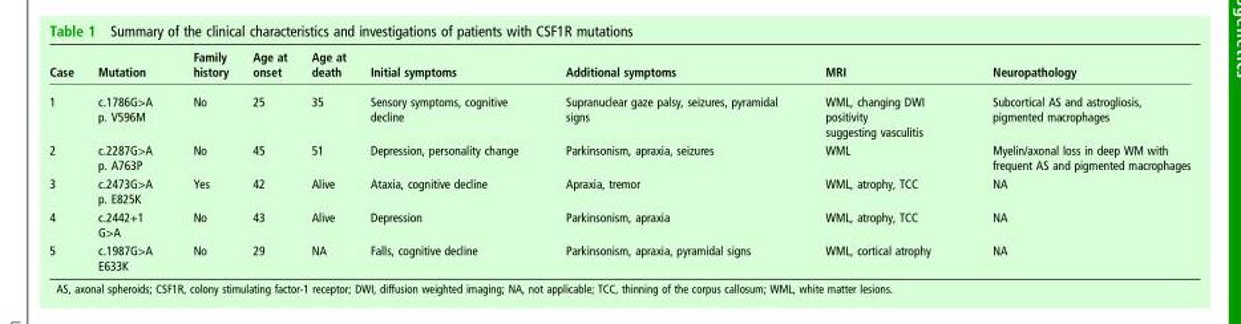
<table><thead><tr><td>Case</td><td>Mutation</td><td>Family history</td><td>Age at onset</td><td>Age at death</td><td>Initial symptoms</td><td>Additional symptoms</td><td>MRI</td><td>Neuropathology</td></tr></thead><tbody><tr><td>1</td><td>c.1786G&gt;A p. V596M</td><td>No</td><td>25</td><td>35</td><td>Sensory symptoms, cognitive decline</td><td>Supranuclear gaze palsy, seizures, pyramidal signs</td><td>WML, changing DWI positivity suggesting vasculitis</td><td>Subcortical AS and astrogliosis, pigmented macrophages</td></tr><tr><td>2</td><td>c.2287G&gt;A p. A763P</td><td>No</td><td>45</td><td>51</td><td>Depression, personality change</td><td>Parkinsonism, apraxia, seizures</td><td>WML</td><td>Myelin/axonal loss in deep WM with frequent AS and pigmented macrophages</td></tr><tr><td>3</td><td>c.2473G&gt;A p. E825K</td><td>Yes</td><td>42</td><td>Alive</td><td>Ataxia, cognitive decline</td><td>Apraxia, tremor</td><td>WML, atrophy, TCC</td><td>NA</td></tr><tr><td>4</td><td>c.2442+1 G&gt;A</td><td>No</td><td>43</td><td>Alive</td><td>Depression</td><td>Parkinsonism, apraxia</td><td>WML, atrophy, TCC</td><td>NA</td></tr><tr><td>5</td><td>c.1987G&gt;A E633K</td><td>No</td><td>29</td><td>NA</td><td>Falls, cognitive decline</td><td>Parkinsonism, apraxia, pyramidal signs</td><td>WML, cortical atrophy</td><td>NA</td></tr></tbody></table>